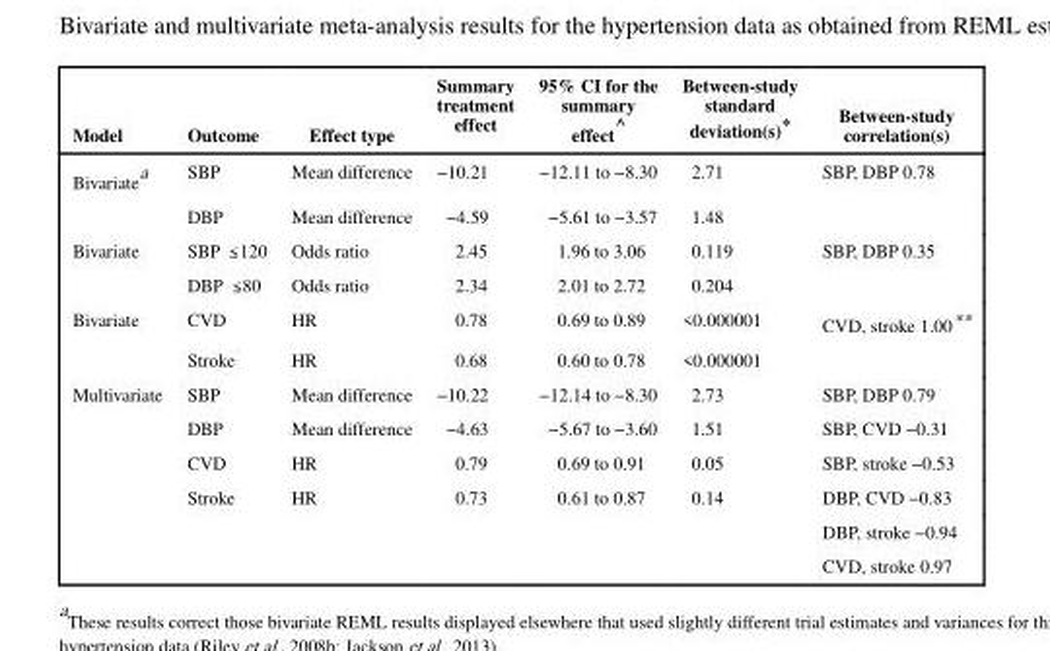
<table><thead><tr><td>Model</td><td>Outcome</td><td>Effect type</td><td>Summary treatment effect</td><td>95% CI for the summary effect<sup>^</sup></td><td>Between-study standard deviation(s)*</td><td>Between-study correlation(s)</td></tr></thead><tbody><tr><td rowspan="2">Bivariate<sup>a</sup></td><td>SBP</td><td>Mean difference</td><td>−10.21</td><td>−12.11 to −8.30</td><td>2.71</td><td>SBP, DBP 0.78</td></tr><tr><td>DBP</td><td>Mean difference</td><td>−4.59</td><td>−5.61 to −3.57</td><td>1.48</td><td></td></tr><tr><td rowspan="2">Bivariate</td><td>SBP ≤ 120</td><td>Odds ratio</td><td>2.45</td><td>1.96 to 3.06</td><td>0.119</td><td>SBP, DBP 0.35</td></tr><tr><td>DBP ≤ 80</td><td>Odds ratio</td><td>2.34</td><td>2.01 to 2.72</td><td>0.204</td><td></td></tr><tr><td rowspan="2">Bivariate</td><td>CVD</td><td>HR</td><td>0.78</td><td>0.69 to 0.89</td><td>&lt;0.000001</td><td>CVD, stroke 1.00**</td></tr><tr><td>Stroke</td><td>HR</td><td>0.68</td><td>0.60 to 0.78</td><td>&lt;0.000001</td><td></td></tr><tr><td rowspan="6">Multivariate</td><td>SBP</td><td>Mean difference</td><td>−10.22</td><td>−12.14 to −8.30</td><td>2.73</td><td>SBP, DBP 0.79</td></tr><tr><td>DBP</td><td>Mean difference</td><td>−4.63</td><td>−5.67 to −3.60</td><td>1.51</td><td>SBP, CVD −0.31</td></tr><tr><td>CVD</td><td>HR</td><td>0.79</td><td>0.69 to 0.91</td><td>0.05</td><td>SBP, stroke −0.53</td></tr><tr><td>Stroke</td><td>HR</td><td>0.73</td><td>0.61 to 0.87</td><td>0.14</td><td>DBP, CVD −0.83</td></tr><tr><td></td><td></td><td></td><td></td><td></td><td>DBP, stroke −0.94</td></tr><tr><td></td><td></td><td></td><td></td><td></td><td>CVD, stroke 0.97</td></tr></tbody></table>